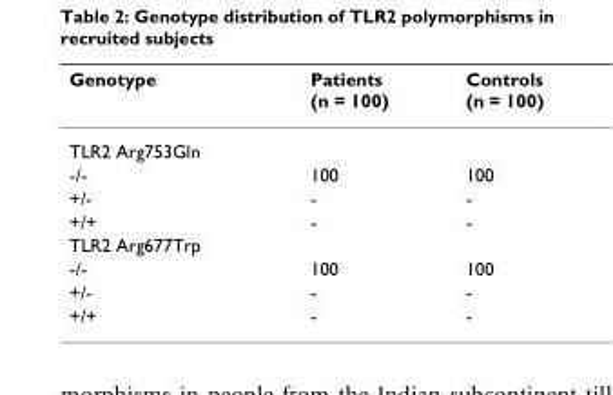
<table><thead><tr><td>Genotype</td><td>Patients (n = 100)</td><td>Controls (n = 100)</td></tr></thead><tbody><tr><td colspan="3">TLR2 Arg753Gln</td></tr><tr><td>-/-</td><td>100</td><td>100</td></tr><tr><td>+/-</td><td>-</td><td>-</td></tr><tr><td>+/+</td><td>-</td><td>-</td></tr><tr><td colspan="3">TLR2 Arg677Trp</td></tr><tr><td>-/-</td><td>100</td><td>100</td></tr><tr><td>+/-</td><td>-</td><td>-</td></tr><tr><td>+/+</td><td>-</td><td>-</td></tr></tbody></table>